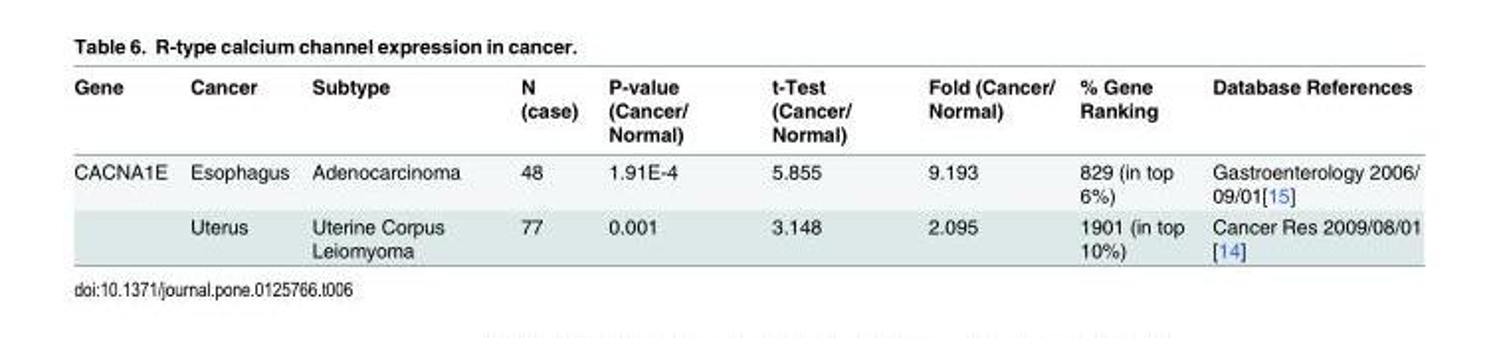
<table><thead><tr><td>Gene</td><td>Cancer</td><td>Subtype</td><td>N (case)</td><td>P-value (Cancer/ Normal)</td><td>t-Test (Cancer/ Normal)</td><td>Fold (Cancer/ Normal)</td><td>% Gene Ranking</td><td>Database References</td></tr></thead><tbody><tr><td rowspan="2">CACNA1E</td><td>Esophagus</td><td>Adenocarcinoma</td><td>48</td><td>1.91E-4</td><td>5.855</td><td>9.193</td><td>829 (in top 6%)</td><td>Gastroenterology 2006/ 09/01[15]</td></tr><tr><td>Uterus</td><td>Uterine Corpus Leiomyoma</td><td>77</td><td>0.001</td><td>3.148</td><td>2.095</td><td>1901 (in top 10%)</td><td>Cancer Res 2009/08/01 [14]</td></tr></tbody></table>